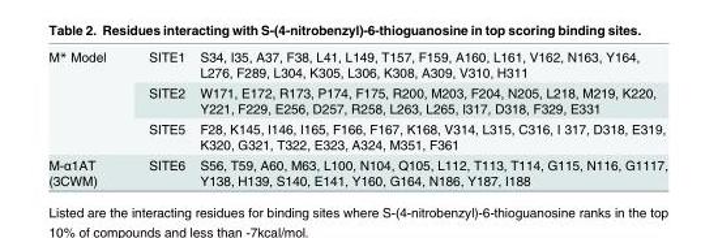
<table><tbody><tr><td rowspan="3">M* Model</td><td>SITE1</td><td>S34, I35, A37, F38, L41, L149, T157, F159, A160, L161, V162, N163, Y164, L276, F289, L304, K305, L306, K308, A309, V310, H311</td></tr><tr><td>SITE2</td><td>W171, E172, R173, P174, F175, R200, M203, F204, N205, L218, M219, K220, Y221, F229, E256, D257, R258, L263, L265, I317, D318, F329, E331</td></tr><tr><td>SITE5</td><td>F28, K145, I146, I165, F166, F167, K168, V314, L315, C316, I 317, D318, E319, K320, G321, T322, E323, A324, M351, F361</td></tr><tr><td>M-α1AT (3CWM)</td><td>SITE6</td><td>S56, T59, A60, M63, L100, N104, Q105, L112, T113, T114, G115, N116, G1117, Y138, H139, S140, E141, Y160, G164, N186, Y187, I188</td></tr></tbody></table>